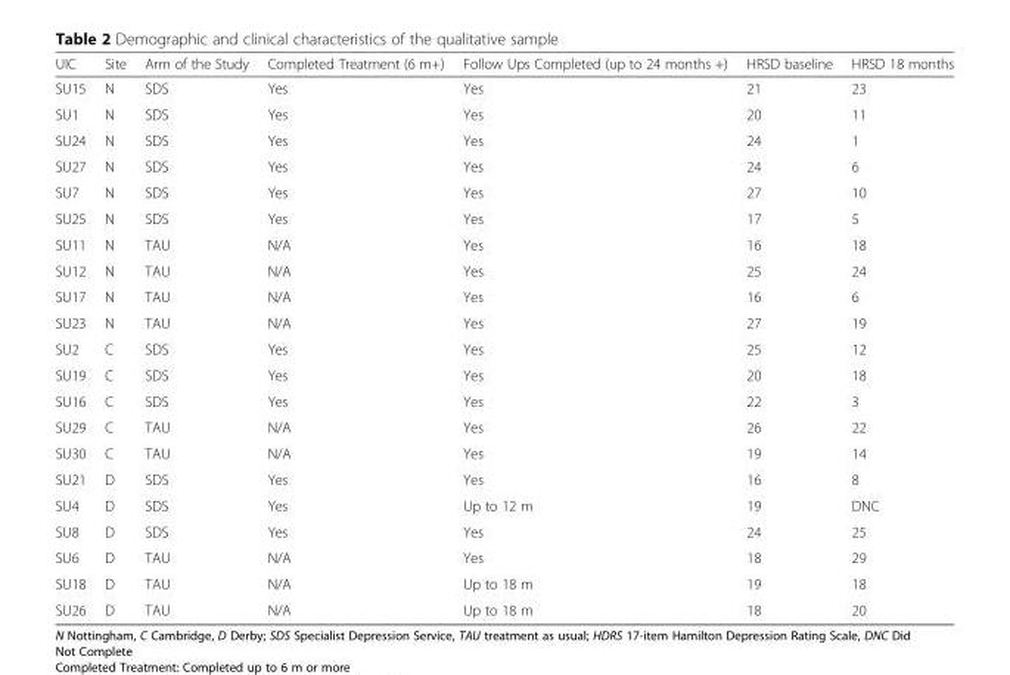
<table><thead><tr><td>UIC</td><td>Site</td><td>Arm of the Study</td><td>Completed Treatment (6 m+)</td><td>Follow Ups Completed (up to 24 months +)</td><td>HRSD baseline</td><td>HRSD 18 months</td></tr></thead><tbody><tr><td>SU15</td><td>N</td><td>SDS</td><td>Yes</td><td>Yes</td><td>21</td><td>23</td></tr><tr><td>SU1</td><td>N</td><td>SDS</td><td>Yes</td><td>Yes</td><td>20</td><td>11</td></tr><tr><td>SU24</td><td>N</td><td>SDS</td><td>Yes</td><td>Yes</td><td>24</td><td>1</td></tr><tr><td>SU27</td><td>N</td><td>SDS</td><td>Yes</td><td>Yes</td><td>24</td><td>6</td></tr><tr><td>SU7</td><td>N</td><td>SDS</td><td>Yes</td><td>Yes</td><td>27</td><td>10</td></tr><tr><td>SU25</td><td>N</td><td>SDS</td><td>Yes</td><td>Yes</td><td>17</td><td>5</td></tr><tr><td>SU11</td><td>N</td><td>TAU</td><td>N/A</td><td>Yes</td><td>16</td><td>18</td></tr><tr><td>SU12</td><td>N</td><td>TAU</td><td>N/A</td><td>Yes</td><td>25</td><td>24</td></tr><tr><td>SU17</td><td>N</td><td>TAU</td><td>N/A</td><td>Yes</td><td>16</td><td>6</td></tr><tr><td>SU23</td><td>N</td><td>TAU</td><td>N/A</td><td>Yes</td><td>27</td><td>19</td></tr><tr><td>SU2</td><td>C</td><td>SDS</td><td>Yes</td><td>Yes</td><td>25</td><td>12</td></tr><tr><td>SU19</td><td>C</td><td>SDS</td><td>Yes</td><td>Yes</td><td>20</td><td>18</td></tr><tr><td>SU16</td><td>C</td><td>SDS</td><td>Yes</td><td>Yes</td><td>22</td><td>3</td></tr><tr><td>SU29</td><td>C</td><td>TAU</td><td>N/A</td><td>Yes</td><td>26</td><td>22</td></tr><tr><td>SU30</td><td>C</td><td>TAU</td><td>N/A</td><td>Yes</td><td>19</td><td>14</td></tr><tr><td>SU21</td><td>D</td><td>SDS</td><td>Yes</td><td>Yes</td><td>16</td><td>8</td></tr><tr><td>SU4</td><td>D</td><td>SDS</td><td>Yes</td><td>Up to 12 m</td><td>19</td><td>DNC</td></tr><tr><td>SU8</td><td>D</td><td>SDS</td><td>Yes</td><td>Yes</td><td>24</td><td>25</td></tr><tr><td>SU6</td><td>D</td><td>TAU</td><td>N/A</td><td>Yes</td><td>18</td><td>29</td></tr><tr><td>SU18</td><td>D</td><td>TAU</td><td>N/A</td><td>Up to 18 m</td><td>19</td><td>18</td></tr><tr><td>SU26</td><td>D</td><td>TAU</td><td>N/A</td><td>Up to 18 m</td><td>18</td><td>20</td></tr></tbody></table>